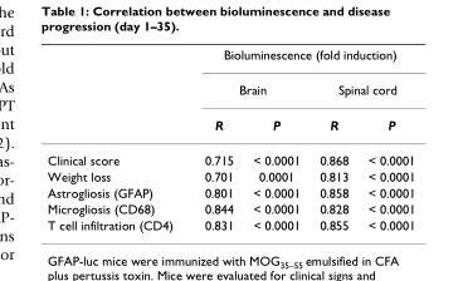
<table><thead><tr><td rowspan="3"></td><td colspan="4">Bioluminescence (fold induction)</td></tr><tr><td colspan="2">Brain</td><td colspan="2">Spinal cord</td></tr><tr><td>R</td><td>P</td><td>R</td><td>P</td></tr></thead><tbody><tr><td>Clinical score</td><td>0.715</td><td>&lt; 0.0001</td><td>0.868</td><td>&lt; 0.0001</td></tr><tr><td>Weight loss</td><td>0.701</td><td>0.0001</td><td>0.813</td><td>&lt; 0.0001</td></tr><tr><td>Astrogliosis (GFAP)</td><td>0.801</td><td>&lt; 0.0001</td><td>0.858</td><td>&lt; 0.0001</td></tr><tr><td>Microgliosis (CD68)</td><td>0.844</td><td>&lt; 0.0001</td><td>0.828</td><td>&lt; 0.0001</td></tr><tr><td>T cell infiltration (CD4)</td><td>0.831</td><td>&lt; 0.0001</td><td>0.855</td><td>&lt; 0.0001</td></tr></tbody></table>